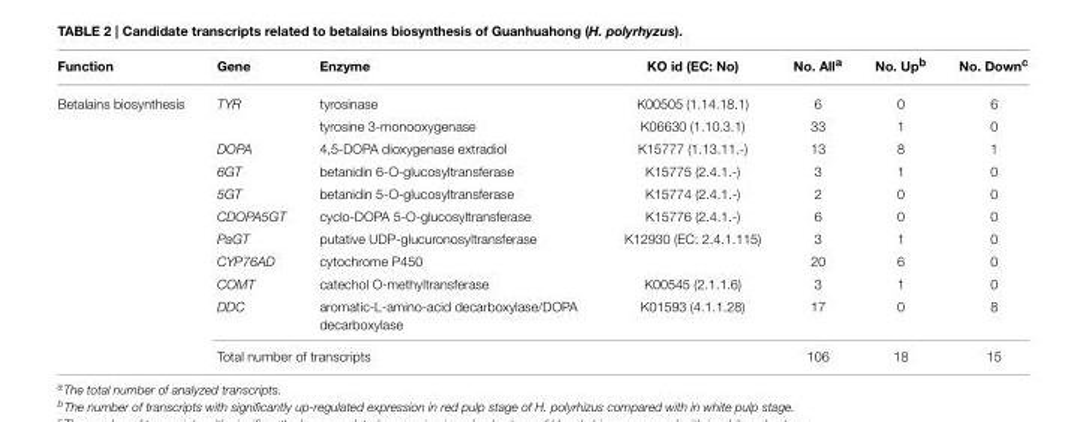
<table><thead><tr><td>Function</td><td>Gene</td><td>Enzyme</td><td>KO id (EC: No)</td><td>No. All<sup>a</sup></td><td>No. Up<sup>b</sup></td><td>No. Down<sup>c</sup></td></tr></thead><tbody><tr><td rowspan="11">Betalains biosynthesis</td><td>TYR</td><td>tyrosinase</td><td>K00505 (1.14.18.1)</td><td>6</td><td>0</td><td>6</td></tr><tr><td></td><td>tyrosine 3-monooxygenase</td><td>K06630 (1.10.3.1)</td><td>33</td><td>1</td><td>0</td></tr><tr><td>DOPA</td><td>4,5-DOPA dioxygenase extradiol</td><td>K15777 (1.13.11.-)</td><td>13</td><td>8</td><td>1</td></tr><tr><td>6GT</td><td>betanidin 6-O-glucosyltransferase</td><td>K15775 (2.4.1.-)</td><td>3</td><td>1</td><td>0</td></tr><tr><td>5GT</td><td>betanidin 5-O-glucosyltransferase</td><td>K15774 (2.4.1.-)</td><td>2</td><td>0</td><td>0</td></tr><tr><td>CDOPA5GT</td><td>cyclo-DOPA 5-O-glucosyltransferase</td><td>K15776 (2.4.1.-)</td><td>6</td><td>0</td><td>0</td></tr><tr><td>PaGT</td><td>putative UDP-glucuronosyltransferase</td><td>K12930 (EC: 2.4.1.115)</td><td>3</td><td>1</td><td>0</td></tr><tr><td>CYP76AD</td><td>cytochrome P450</td><td></td><td>20</td><td>6</td><td>0</td></tr><tr><td>COMT</td><td>catechol O-methyltransferase</td><td>K00545 (2.1.1.6)</td><td>3</td><td>1</td><td>0</td></tr><tr><td>DDC</td><td>aromatic-L-amino-acid decarboxylase/DOPA decarboxylase</td><td>K01593 (4.1.1.28)</td><td>17</td><td>0</td><td>8</td></tr><tr><td colspan="3">Total number of transcripts</td><td>106</td><td>18</td><td>15</td></tr></tbody></table>